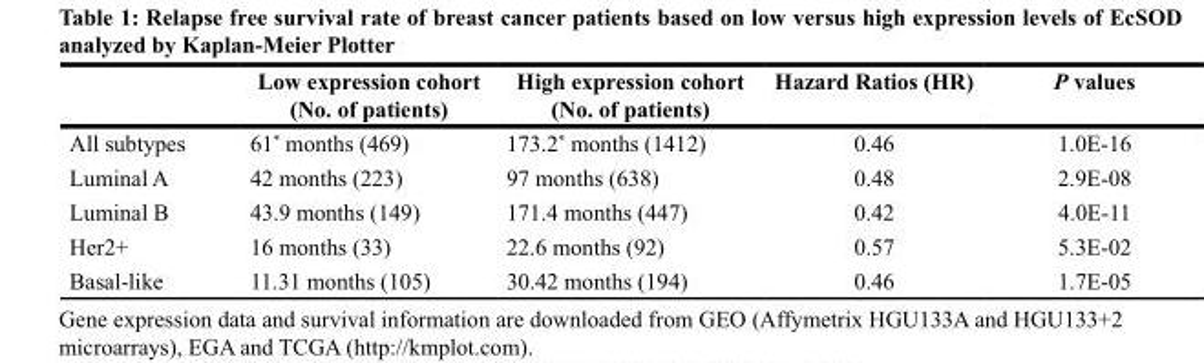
<table><thead><tr><td></td><td>Low expression cohort (No. of patients)</td><td>High expression cohort (No. of patients)</td><td>Hazard Ratios (HR)</td><td>P values</td></tr></thead><tbody><tr><td>All subtypes</td><td>61* months (469)</td><td>173.2* months (1412)</td><td>0.46</td><td>1.0E-16</td></tr><tr><td>Luminal A</td><td>42 months (223)</td><td>97 months (638)</td><td>0.48</td><td>2.9E-08</td></tr><tr><td>Luminal B</td><td>43.9 months (149)</td><td>171.4 months (447)</td><td>0.42</td><td>4.0E-11</td></tr><tr><td>Her2+</td><td>16 months (33)</td><td>22.6 months (92)</td><td>0.57</td><td>5.3E-02</td></tr><tr><td>Basal-like</td><td>11.31 months (105)</td><td>30.42 months (194)</td><td>0.46</td><td>1.7E-05</td></tr></tbody></table>